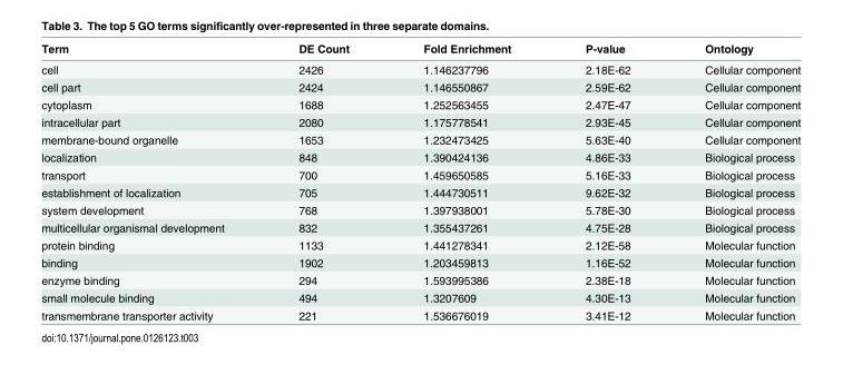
<table><thead><tr><td>Term</td><td>DE Count</td><td>Fold Enrichment</td><td>P-value</td><td>Ontology</td></tr></thead><tbody><tr><td>cell</td><td>2426</td><td>1.146237796</td><td>2.18E-62</td><td>Cellular component</td></tr><tr><td>cell part</td><td>2424</td><td>1.146550867</td><td>2.59E-62</td><td>Cellular component</td></tr><tr><td>cytoplasm</td><td>1688</td><td>1.252563455</td><td>2.47E-47</td><td>Cellular component</td></tr><tr><td>intracellular part</td><td>2080</td><td>1.175778541</td><td>2.93E-45</td><td>Cellular component</td></tr><tr><td>membrane-bound organelle</td><td>1653</td><td>1.232473425</td><td>5.63E-40</td><td>Cellular component</td></tr><tr><td>localization</td><td>848</td><td>1.390424136</td><td>4.86E-33</td><td>Biological process</td></tr><tr><td>transport</td><td>700</td><td>1.459650585</td><td>5.16E-33</td><td>Biological process</td></tr><tr><td>establishment of localization</td><td>705</td><td>1.444730511</td><td>9.62E-32</td><td>Biological process</td></tr><tr><td>system development</td><td>768</td><td>1.397938001</td><td>5.78E-30</td><td>Biological process</td></tr><tr><td>multicellular organismal development</td><td>832</td><td>1.355437261</td><td>4.75E-28</td><td>Biological process</td></tr><tr><td>protein binding</td><td>1133</td><td>1.441278341</td><td>2.12E-58</td><td>Molecular function</td></tr><tr><td>binding</td><td>1902</td><td>1.203459813</td><td>1.16E-52</td><td>Molecular function</td></tr><tr><td>enzyme binding</td><td>294</td><td>1.593995386</td><td>2.38E-18</td><td>Molecular function</td></tr><tr><td>small molecule binding</td><td>494</td><td>1.3207609</td><td>4.30E-13</td><td>Molecular function</td></tr><tr><td>transmembrane transporter activity</td><td>221</td><td>1.536676019</td><td>3.41E-12</td><td>Molecular function</td></tr></tbody></table>